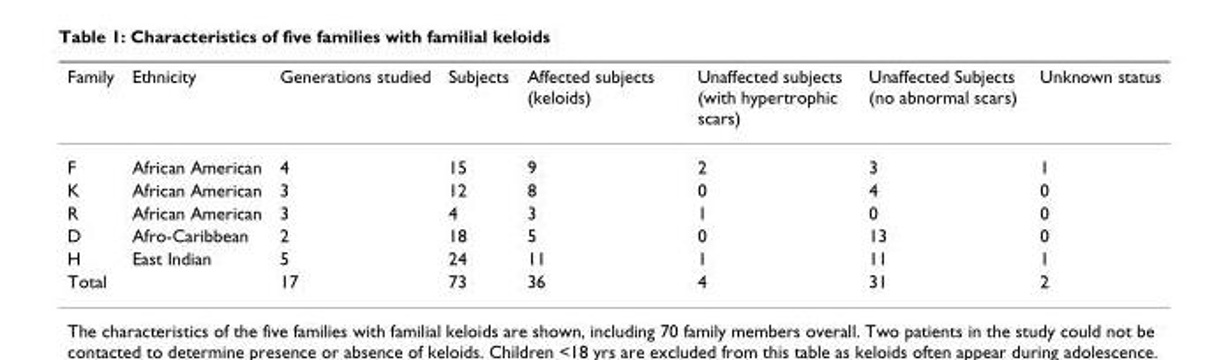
<table><thead><tr><td>Family</td><td>Ethnicity</td><td>Generations studied</td><td>Subjects</td><td>Affected subjects (keloids)</td><td>Unaffected subjects (with hypertrophic scars)</td><td>Unaffected Subjects (no abnormal scars)</td><td>Unknown status</td></tr></thead><tbody><tr><td>F</td><td>African American</td><td>4</td><td>15</td><td>9</td><td>2</td><td>3</td><td>1</td></tr><tr><td>K</td><td>African American</td><td>3</td><td>12</td><td>8</td><td>0</td><td>4</td><td>0</td></tr><tr><td>R</td><td>African American</td><td>3</td><td>4</td><td>3</td><td>1</td><td>0</td><td>0</td></tr><tr><td>D</td><td>Afro-Caribbean</td><td>2</td><td>18</td><td>5</td><td>0</td><td>13</td><td>0</td></tr><tr><td>H</td><td>East Indian</td><td>5</td><td>24</td><td>11</td><td>1</td><td>11</td><td>1</td></tr><tr><td>Total</td><td></td><td>17</td><td>73</td><td>36</td><td>4</td><td>31</td><td>2</td></tr></tbody></table>